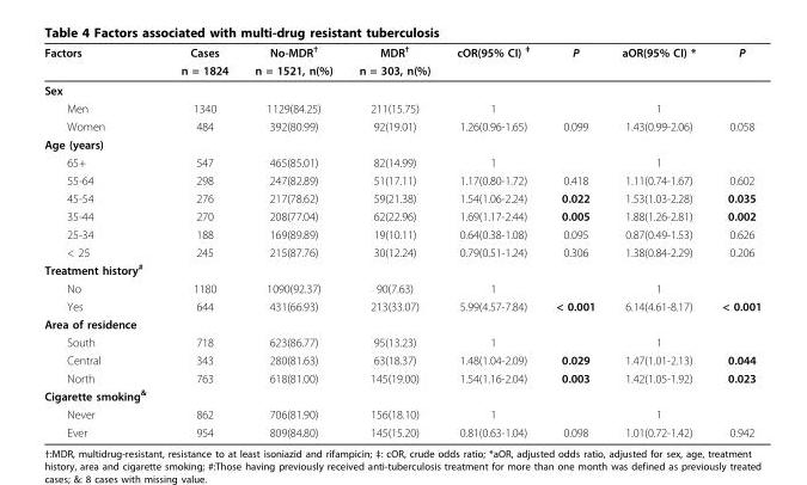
<table><thead><tr><td rowspan="2">Factors</td><td rowspan="2">Cases n = 1824</td><td rowspan="2">No-MDR<sup>†</sup> n = 1521, n(%)</td><td rowspan="2">MDR<sup>†</sup> n = 303, n(%)</td><td rowspan="2">cOR(95% CI) <sup>‡</sup></td><td rowspan="2">P</td><td rowspan="2">aOR(95% CI) *</td><td rowspan="2">P</td></tr><tr></tr></thead><tbody><tr><td colspan="8">Sex</td></tr><tr><td>Men</td><td>1340</td><td>1129(84.25)</td><td>211(15.75)</td><td>1</td><td></td><td>1</td><td></td></tr><tr><td>Women</td><td>484</td><td>392(80.99)</td><td>92(19.01)</td><td>1.26(0.96-1.65)</td><td>0.099</td><td>1.43(0.99-2.06)</td><td>0.058</td></tr><tr><td colspan="8">Age (years)</td></tr><tr><td>65+</td><td>547</td><td>465(85.01)</td><td>82(14.99)</td><td>1</td><td></td><td>1</td><td></td></tr><tr><td>55-64</td><td>298</td><td>247(82.89)</td><td>51(17.11)</td><td>1.17(0.80-1.72)</td><td>0.418</td><td>1.11(0.74-1.67)</td><td>0.602</td></tr><tr><td>45-54</td><td>276</td><td>217(78.62)</td><td>59(21.38)</td><td>1.54(1.06-2.24)</td><td>0.022</td><td>1.53(1.03-2.28)</td><td>0.035</td></tr><tr><td>35-44</td><td>270</td><td>208(77.04)</td><td>62(22.96)</td><td>1.69(1.17-2.44)</td><td>0.005</td><td>1.88(1.26-2.81)</td><td>0.002</td></tr><tr><td>25-34</td><td>188</td><td>169(89.89)</td><td>19(10.11)</td><td>0.64(0.38-1.08)</td><td>0.095</td><td>0.87(0.49-1.53)</td><td>0.626</td></tr><tr><td>&lt; 25</td><td>245</td><td>215(87.76)</td><td>30(12.24)</td><td>0.79(0.51-1.24)</td><td>0.306</td><td>1.38(0.84-2.29)</td><td>0.206</td></tr><tr><td colspan="8">Treatment history<sup>#</sup></td></tr><tr><td>No</td><td>1180</td><td>1090(92.37)</td><td>90(7.63)</td><td>1</td><td></td><td>1</td><td></td></tr><tr><td>Yes</td><td>644</td><td>431(66.93)</td><td>213(33.07)</td><td>5.99(4.57-7.84)</td><td>&lt; 0.001</td><td>6.14(4.61-8.17)</td><td>&lt; 0.001</td></tr><tr><td colspan="8">Area of residence</td></tr><tr><td>South</td><td>718</td><td>623(86.77)</td><td>95(13.23)</td><td>1</td><td></td><td>1</td><td></td></tr><tr><td>Central</td><td>343</td><td>280(81.63)</td><td>63(18.37)</td><td>1.48(1.04-2.09)</td><td>0.029</td><td>1.47(1.01-2.13)</td><td>0.044</td></tr><tr><td>North</td><td>763</td><td>618(81.00)</td><td>145(19.00)</td><td>1.54(1.16-2.04)</td><td>0.003</td><td>1.42(1.05-1.92)</td><td>0.023</td></tr><tr><td colspan="8">Cigarette smoking<sup>&amp;</sup></td></tr><tr><td>Never</td><td>862</td><td>706(81.90)</td><td>156(18.10)</td><td>1</td><td></td><td>1</td><td></td></tr><tr><td>Ever</td><td>954</td><td>809(84.80)</td><td>145(15.20)</td><td>0.81(0.63-1.04)</td><td>0.098</td><td>1.01(0.72-1.42)</td><td>0.942</td></tr></tbody></table>